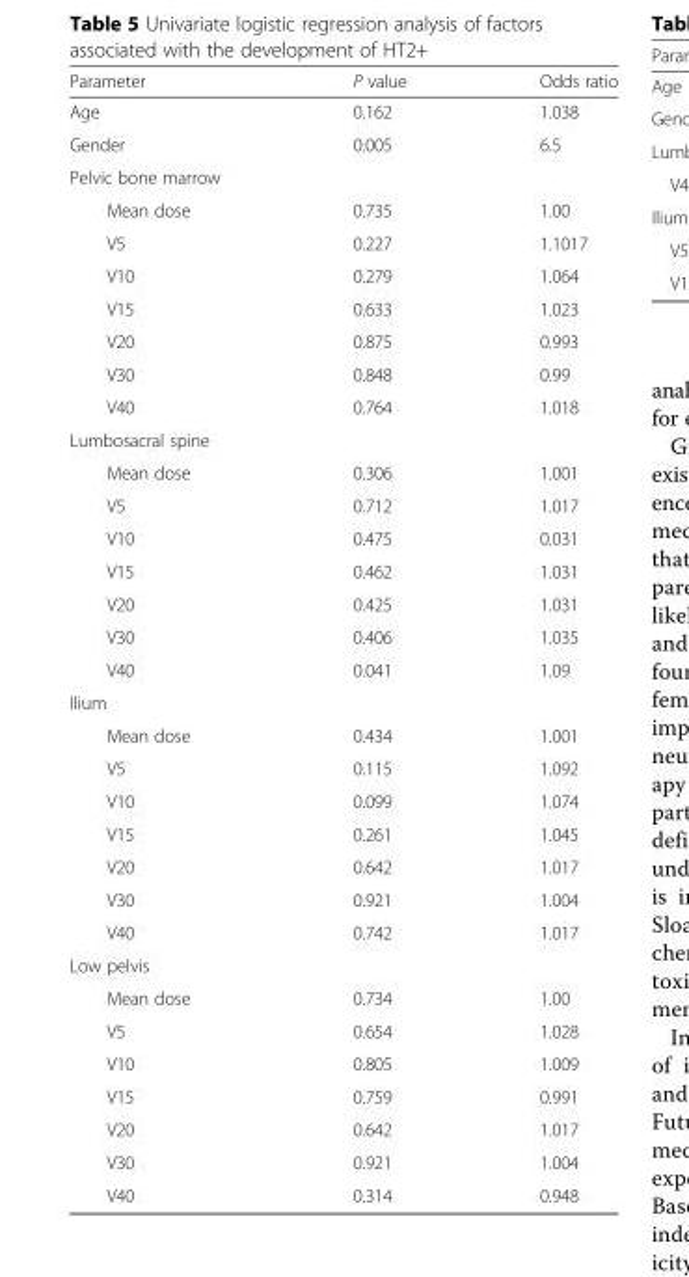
<table><thead><tr><td>Parameter</td><td>P value</td><td>Odds ratio</td></tr></thead><tbody><tr><td>Age</td><td>0.162</td><td>1.038</td></tr><tr><td>Gender</td><td>0.005</td><td>6.5</td></tr><tr><td colspan="3">Pelvic bone marrow</td></tr><tr><td>Mean dose</td><td>0.735</td><td>1.00</td></tr><tr><td>V5</td><td>0.227</td><td>1.1017</td></tr><tr><td>V10</td><td>0.279</td><td>1.064</td></tr><tr><td>V15</td><td>0.633</td><td>1.023</td></tr><tr><td>V20</td><td>0.875</td><td>0.993</td></tr><tr><td>V30</td><td>0.848</td><td>0.99</td></tr><tr><td>V40</td><td>0.764</td><td>1.018</td></tr><tr><td colspan="3">Lumbosacral spine</td></tr><tr><td>Mean dose</td><td>0.306</td><td>1.001</td></tr><tr><td>V5</td><td>0.712</td><td>1.017</td></tr><tr><td>V10</td><td>0.475</td><td>0.031</td></tr><tr><td>V15</td><td>0.462</td><td>1.031</td></tr><tr><td>V20</td><td>0.425</td><td>1.031</td></tr><tr><td>V30</td><td>0.406</td><td>1.035</td></tr><tr><td>V40</td><td>0.041</td><td>1.09</td></tr><tr><td colspan="3">Ilium</td></tr><tr><td>Mean dose</td><td>0.434</td><td>1.001</td></tr><tr><td>V5</td><td>0.115</td><td>1.092</td></tr><tr><td>V10</td><td>0.099</td><td>1.074</td></tr><tr><td>V15</td><td>0.261</td><td>1.045</td></tr><tr><td>V20</td><td>0.642</td><td>1.017</td></tr><tr><td>V30</td><td>0.921</td><td>1.004</td></tr><tr><td>V40</td><td>0.742</td><td>1.017</td></tr><tr><td colspan="3">Low pelvis</td></tr><tr><td>Mean dose</td><td>0.734</td><td>1.00</td></tr><tr><td>V5</td><td>0.654</td><td>1.028</td></tr><tr><td>V10</td><td>0.805</td><td>1.009</td></tr><tr><td>V15</td><td>0.759</td><td>0.991</td></tr><tr><td>V20</td><td>0.642</td><td>1.017</td></tr><tr><td>V30</td><td>0.921</td><td>1.004</td></tr><tr><td>V40</td><td>0.314</td><td>0.948</td></tr></tbody></table>